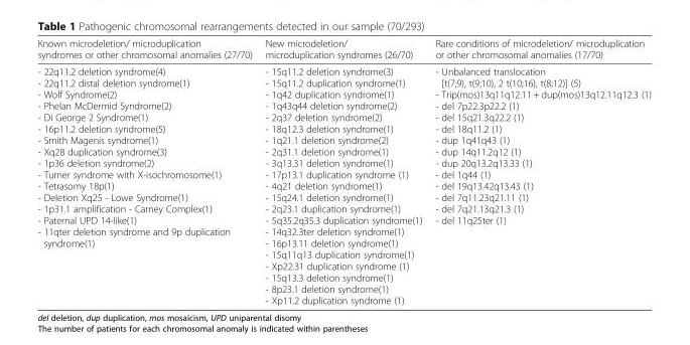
<table><thead><tr><td>Known microdeletion/ microduplication syndromes or other chromosomal anomalies (27/70)</td><td>New microdeletion/ microduplication syndromes (26/70)</td><td>Rare conditions of microdeletion/ microduplication or other chromosomal anomalies (17/70)</td></tr></thead><tbody><tr><td>- 22q11.2 deletion syndrome(4) - 22q11.2 distal deletion syndrome(1) - Wolf Syndrome(2) - Phelan McDermid Syndrome(2) - Di George 2 Syndrome(1) - 16p11.2 deletion syndrome(5) - Smith Magenis syndrome(1) - Xq28 duplication syndrome(3) - 1p36 deletion syndrome(2) - Turner syndrome with X-isochromosome(1) - Tetrasomy 18p(1) - Deletion Xq25 - Lowe Syndrome(1) - 1p31.1 amplification - Carney Complex(1) - Paternal UPD 14-like(1) - 11qter deletion syndrome and 9p duplication syndrome(1)</td><td>- 15q11.2 deletion syndrome(3) - 15q11.2 duplication syndrome(1) - 1q42 duplication syndrome(1) - 1q43q44 deletion syndrome(2) - 2q37 deletion syndrome(2) - 18q12.3 deletion syndrome(1) - 1q21.1 deletion syndrome(2) - 2q31.1 deletion syndrome(1) - 3q13.31 deletion syndrome(1) - 17p13.1 duplication syndrome (1) - 4q21 deletion syndrome(1) - 15q24.1 deletion syndrome(1) - 2q23.1 duplication syndrome(1) - 5q35.2q35.3 duplication syndrome(1) - 14q32.3ter deletion syndrome(1) - 16p13.11 deletion syndrome(1) - 15q11q13 duplication syndrome(1) - Xp22.31 duplication syndrome (1) - 15q13.3 deletion syndrome(1) - 8p23.1 deletion syndrome(1) - Xp11.2 duplication syndrome (1)</td><td>- Unbalanced translocation [t(7;9), t(9;10), 2 t(10;16), t(8;12)] (5) - Trip(mos)13q11q12.11 + dup(mos)13q12.11q12.3 (1) - del 7p22.3p22.2 (1) - del 15q21.3q22.2 (1) - del 18q11.2 (1) - dup 1q41q43 (1) - dup 14q11.2q12 (1) - dup 20q13.2q13.33 (1) - del 1q44 (1) - del 19q13.42q13.43 (1) - del 7q11.23q21.11 (1) - del 7q21.13q21.3 (1) - del 11q25ter (1)</td></tr></tbody></table>